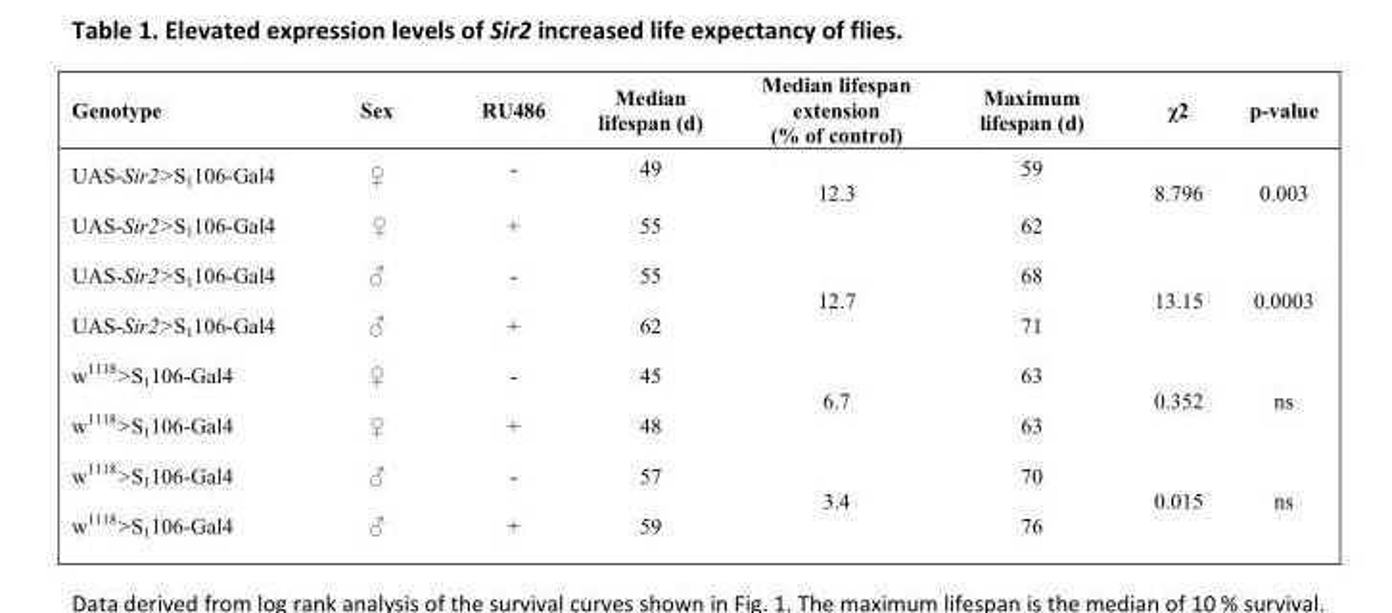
<table><thead><tr><td>Genotype</td><td>Sex</td><td>RU486</td><td>Median lifespan (d)</td><td>Median lifespan extension (% of control)</td><td>Maximum lifespan (d)</td><td>χ2</td><td>p-value</td></tr></thead><tbody><tr><td>UAS-Sir2&gt;S<sub>1</sub>106-Gal4</td><td>♀</td><td>-</td><td>49</td><td rowspan="2">12.3</td><td>59</td><td rowspan="2">8.796</td><td rowspan="2">0.003</td></tr><tr><td>UAS-Sir2&gt;S<sub>1</sub>106-Gal4</td><td>♀</td><td>+</td><td>55</td><td>62</td></tr><tr><td>UAS-Sir2&gt;S<sub>1</sub>106-Gal4</td><td>♂</td><td>-</td><td>55</td><td rowspan="2">12.7</td><td>68</td><td rowspan="2">13.15</td><td rowspan="2">0.0003</td></tr><tr><td>UAS-Sir2&gt;S<sub>1</sub>106-Gal4</td><td>♂</td><td>+</td><td>62</td><td>71</td></tr><tr><td>w<sup>1118</sup>&gt;S<sub>1</sub>106-Gal4</td><td>♀</td><td>-</td><td>45</td><td rowspan="2">6.7</td><td>63</td><td rowspan="2">0.352</td><td rowspan="2">ns</td></tr><tr><td>w<sup>1118</sup>&gt;S<sub>1</sub>106-Gal4</td><td>♀</td><td>+</td><td>48</td><td>63</td></tr><tr><td>w<sup>1118</sup>&gt;S<sub>1</sub>106-Gal4</td><td>♂</td><td>-</td><td>57</td><td rowspan="2">3.4</td><td>70</td><td rowspan="2">0.015</td><td rowspan="2">ns</td></tr><tr><td>w<sup>1118</sup>&gt;S<sub>1</sub>106-Gal4</td><td>♂</td><td>+</td><td>59</td><td>76</td></tr></tbody></table>